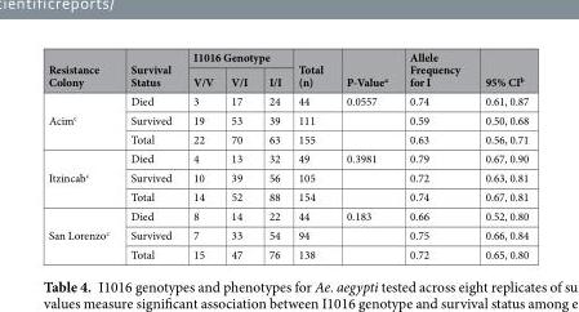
<table><thead><tr><td rowspan="2">Resistance Colony</td><td rowspan="2">Survival Status</td><td colspan="3">I1016 Genotype</td><td rowspan="2">Total (n)</td><td rowspan="2">P-Value<sup>a</sup></td><td rowspan="2">Allele Frequency for I</td><td rowspan="2">95% CI<sup>b</sup></td></tr><tr><td>V/V</td><td>V/I</td><td>I/I</td></tr></thead><tbody><tr><td rowspan="3">Acim<sup>c</sup></td><td>Died</td><td>3</td><td>17</td><td>24</td><td>44</td><td>0.0557</td><td>0.74</td><td>0.61, 0.87</td></tr><tr><td>Survived</td><td>19</td><td>53</td><td>39</td><td>111</td><td></td><td>0.59</td><td>0.50, 0.68</td></tr><tr><td>Total</td><td>22</td><td>70</td><td>63</td><td>155</td><td></td><td>0.63</td><td>0.56, 0.71</td></tr><tr><td rowspan="3">Itzincab<sup>c</sup></td><td>Died</td><td>4</td><td>13</td><td>32</td><td>49</td><td>0.3981</td><td>0.79</td><td>0.67, 0.90</td></tr><tr><td>Survived</td><td>10</td><td>39</td><td>56</td><td>105</td><td></td><td>0.72</td><td>0.63, 0.81</td></tr><tr><td>Total</td><td>14</td><td>52</td><td>88</td><td>154</td><td></td><td>0.74</td><td>0.67, 0.81</td></tr><tr><td rowspan="3">San Lorenzo<sup>c</sup></td><td>Died</td><td>8</td><td>14</td><td>22</td><td>44</td><td>0.183</td><td>0.66</td><td>0.52, 0.80</td></tr><tr><td>Survived</td><td>7</td><td>33</td><td>54</td><td>94</td><td></td><td>0.75</td><td>0.66, 0.84</td></tr><tr><td>Total</td><td>15</td><td>47</td><td>76</td><td>138</td><td></td><td>0.72</td><td>0.65, 0.80</td></tr></tbody></table>